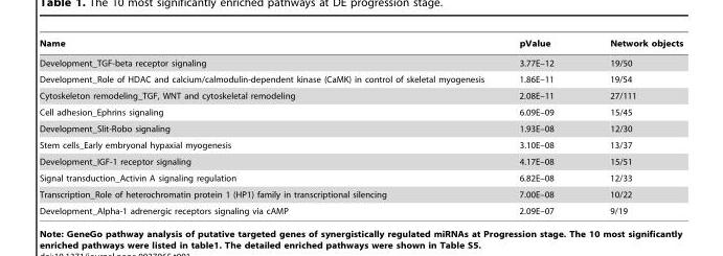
<table><thead><tr><td>Name</td><td>pValue</td><td>Network objects</td></tr></thead><tbody><tr><td>Development_TGF-beta receptor signaling</td><td>3.77E–12</td><td>19/50</td></tr><tr><td>Development_Role of HDAC and calcium/calmodulin-dependent kinase (CaMK) in control of skeletal myogenesis</td><td>1.86E–11</td><td>19/54</td></tr><tr><td>Cytoskeleton remodeling_TGF, WNT and cytoskeletal remodeling</td><td>2.08E–11</td><td>27/111</td></tr><tr><td>Cell adhesion_Ephrins signaling</td><td>6.09E–09</td><td>15/45</td></tr><tr><td>Development_Slit-Robo signaling</td><td>1.93E–08</td><td>12/30</td></tr><tr><td>Stem cells_Early embryonal hypaxial myogenesis</td><td>3.10E–08</td><td>13/37</td></tr><tr><td>Development_IGF-1 receptor signaling</td><td>4.17E–08</td><td>15/51</td></tr><tr><td>Signal transduction_Activin A signaling regulation</td><td>6.82E–08</td><td>12/33</td></tr><tr><td>Transcription_Role of heterochromatin protein 1 (HP1) family in transcriptional silencing</td><td>7.00E–08</td><td>10/22</td></tr><tr><td>Development_Alpha-1 adrenergic receptors signaling via cAMP</td><td>2.09E–07</td><td>9/19</td></tr></tbody></table>